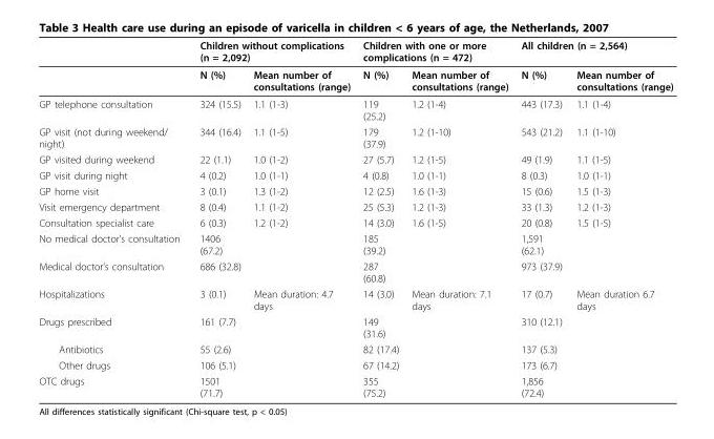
<table><thead><tr><td rowspan="2"></td><td colspan="2">Children without complications (n = 2,092)</td><td colspan="2">Children with one or more complications (n = 472)</td><td colspan="2">All children (n = 2,564)</td></tr><tr><td>N (%)</td><td>Mean number of consultations (range)</td><td>N (%)</td><td>Mean number of consultations (range)</td><td>N (%)</td><td>Mean number of consultations (range)</td></tr></thead><tbody><tr><td>GP telephone consultation</td><td>324 (15.5)</td><td>1.1 (1-3)</td><td>119 (25.2)</td><td>1.2 (1-4)</td><td>443 (17.3)</td><td>1.1 (1-4)</td></tr><tr><td>GP visit (not during weekend/ night)</td><td>344 (16.4)</td><td>1.1 (1-5)</td><td>179 (37.9)</td><td>1.2 (1-10)</td><td>543 (21.2)</td><td>1.1 (1-10)</td></tr><tr><td>GP visited during weekend</td><td>22 (1.1)</td><td>1.0 (1-2)</td><td>27 (5.7)</td><td>1.2 (1-5)</td><td>49 (1.9)</td><td>1.1 (1-5)</td></tr><tr><td>GP visit during night</td><td>4 (0.2)</td><td>1.0 (1-1)</td><td>4 (0.8)</td><td>1.0 (1-1)</td><td>8 (0.3)</td><td>1.0 (1-1)</td></tr><tr><td>GP home visit</td><td>3 (0.1)</td><td>1.3 (1-2)</td><td>12 (2.5)</td><td>1.6 (1-3)</td><td>15 (0.6)</td><td>1.5 (1-3)</td></tr><tr><td>Visit emergency department</td><td>8 (0.4)</td><td>1.1 (1-2)</td><td>25 (5.3)</td><td>1.2 (1-3)</td><td>33 (1.3)</td><td>1.2 (1-3)</td></tr><tr><td>Consultation specialist care</td><td>6 (0.3)</td><td>1.2 (1-2)</td><td>14 (3.0)</td><td>1.6 (1-5)</td><td>20 (0.8)</td><td>1.5 (1-5)</td></tr><tr><td>No medical doctor’s consultation</td><td>1406 (67.2)</td><td></td><td>185 (39.2)</td><td></td><td>1,591 (62.1)</td><td></td></tr><tr><td>Medical doctor’s consultation</td><td>686 (32.8)</td><td></td><td>287 (60.8)</td><td></td><td>973 (37.9)</td><td></td></tr><tr><td>Hospitalizations</td><td>3 (0.1)</td><td>Mean duration: 4.7 days</td><td>14 (3.0)</td><td>Mean duration: 7.1 days</td><td>17 (0.7)</td><td>Mean duration 6.7 days</td></tr><tr><td>Drugs prescribed</td><td>161 (7.7)</td><td></td><td>149 (31.6)</td><td></td><td>310 (12.1)</td><td></td></tr><tr><td>Antibiotics</td><td>55 (2.6)</td><td></td><td>82 (17.4)</td><td></td><td>137 (5.3)</td><td></td></tr><tr><td>Other drugs</td><td>106 (5.1)</td><td></td><td>67 (14.2)</td><td></td><td>173 (6.7)</td><td></td></tr><tr><td>OTC drugs</td><td>1501 (71.7)</td><td></td><td>355 (75.2)</td><td></td><td>1,856 (72.4)</td><td></td></tr></tbody></table>